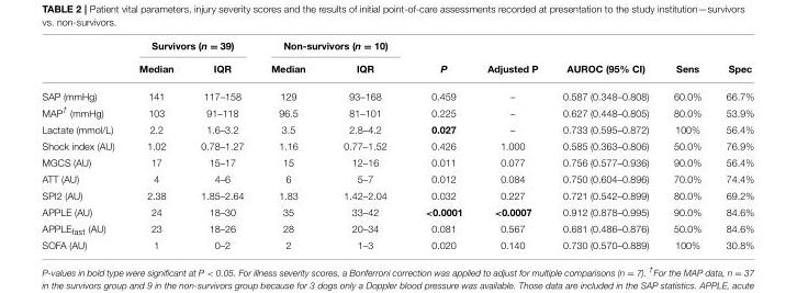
<table><thead><tr><td rowspan="2"></td><td colspan="2">Survivors (n = 39)</td><td colspan="2">Non-survivors (n = 10)</td><td rowspan="2">P</td><td rowspan="2">Adjusted P</td><td rowspan="2">AUROC (95% CI)</td><td rowspan="2">Sens</td><td rowspan="2">Spec</td></tr><tr><td>Median</td><td>IQR</td><td>Median</td><td>IQR</td></tr></thead><tbody><tr><td>SAP (mmHg)</td><td>141</td><td>117–158</td><td>129</td><td>93–168</td><td>0.459</td><td>–</td><td>0.587 (0.348–0.808)</td><td>60.0%</td><td>66.7%</td></tr><tr><td>MAP<sup>†</sup> (mmHg)</td><td>103</td><td>91–118</td><td>96.5</td><td>81–101</td><td>0.225</td><td>–</td><td>0.627 (0.448–0.805)</td><td>80.0%</td><td>53.9%</td></tr><tr><td>Lactate (mmol/L)</td><td>2.2</td><td>1.6–3.2</td><td>3.5</td><td>2.8–4.2</td><td>0.027</td><td>–</td><td>0.733 (0.595–0.872)</td><td>100%</td><td>56.4%</td></tr><tr><td>Shock index (AU)</td><td>1.02</td><td>0.78–1.27</td><td>1.16</td><td>0.77–1.52</td><td>0.426</td><td>1.000</td><td>0.585 (0.363–0.806)</td><td>50.0%</td><td>76.9%</td></tr><tr><td>MGCS (AU)</td><td>17</td><td>15–17</td><td>15</td><td>12–16</td><td>0.011</td><td>0.077</td><td>0.756 (0.577–0.936)</td><td>90.0%</td><td>56.4%</td></tr><tr><td>ATT (AU)</td><td>4</td><td>4–6</td><td>6</td><td>5–7</td><td>0.012</td><td>0.084</td><td>0.750 (0.604–0.896)</td><td>70.0%</td><td>74.4%</td></tr><tr><td>SPI2 (AU)</td><td>2.38</td><td>1.85–2.64</td><td>1.83</td><td>1.42–2.04</td><td>0.032</td><td>0.227</td><td>0.721 (0.542–0.899)</td><td>80.0%</td><td>69.2%</td></tr><tr><td>APPLE (AU)</td><td>24</td><td>18–30</td><td>35</td><td>33–42</td><td>&lt;0.0001</td><td>&lt;0.0007</td><td>0.912 (0.878–0.995)</td><td>90.0%</td><td>84.6%</td></tr><tr><td>APPLE<sub>fast</sub> (AU)</td><td>23</td><td>18–26</td><td>28</td><td>20–34</td><td>0.081</td><td>0.567</td><td>0.681 (0.486–0.876)</td><td>50.0%</td><td>84.6%</td></tr><tr><td>SOFA (AU)</td><td>1</td><td>0–2</td><td>2</td><td>1–3</td><td>0.020</td><td>0.140</td><td>0.730 (0.570–0.889)</td><td>100%</td><td>30.8%</td></tr></tbody></table>